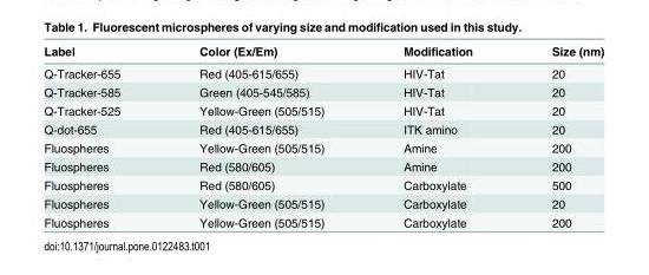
<table><thead><tr><td>Label</td><td>Color (Ex/Em)</td><td>Modification</td><td>Size (nm)</td></tr></thead><tbody><tr><td>Q-Tracker-655</td><td>Red (405-615/655)</td><td>HIV-Tat</td><td>20</td></tr><tr><td>Q-Tracker-585</td><td>Green (405-545/585)</td><td>HIV-Tat</td><td>20</td></tr><tr><td>Q-Tracker-525</td><td>Yellow-Green (505/515)</td><td>HIV-Tat</td><td>20</td></tr><tr><td>Q-dot-655</td><td>Red (405-615/655)</td><td>ITK amino</td><td>20</td></tr><tr><td>Fluospheres</td><td>Yellow-Green (505/515)</td><td>Amine</td><td>200</td></tr><tr><td>Fluospheres</td><td>Red (580/605)</td><td>Amine</td><td>200</td></tr><tr><td>Fluospheres</td><td>Red (580/605)</td><td>Carboxylate</td><td>500</td></tr><tr><td>Fluospheres</td><td>Yellow-Green (505/515)</td><td>Carboxylate</td><td>20</td></tr><tr><td>Fluospheres</td><td>Yellow-Green (505/515)</td><td>Carboxylate</td><td>200</td></tr></tbody></table>